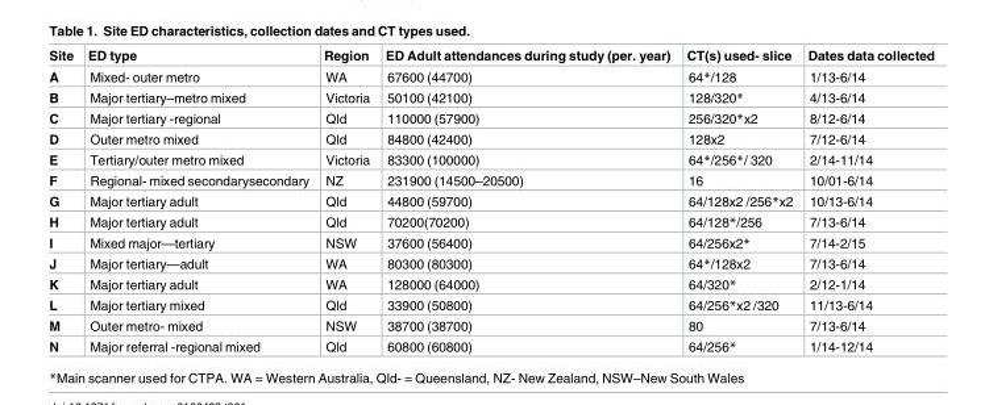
<table><thead><tr><td>Site</td><td>ED type</td><td>Region</td><td>ED Adult attendances during study (per. year)</td><td>CT(s) used- slice</td><td>Dates data collected</td></tr></thead><tbody><tr><td>A</td><td>Mixed- outer metro</td><td>WA</td><td>67600 (44700)</td><td>64*/128</td><td>1/13-6/14</td></tr><tr><td>B</td><td>Major tertiary–metro mixed</td><td>Victoria</td><td>50100 (42100)</td><td>128/320*</td><td>4/13-6/14</td></tr><tr><td>C</td><td>Major tertiary -regional</td><td>Qld</td><td>110000 (57900)</td><td>256/320*x2</td><td>8/12-6/14</td></tr><tr><td>D</td><td>Outer metro mixed</td><td>Qld</td><td>84800 (42400)</td><td>128x2</td><td>7/12-6/14</td></tr><tr><td>E</td><td>Tertiary/outer metro mixed</td><td>Victoria</td><td>83300 (100000)</td><td>64*/256*/ 320</td><td>2/14-11/14</td></tr><tr><td>F</td><td>Regional- mixed secondarysecondary</td><td>NZ</td><td>231900 (14500–20500)</td><td>16</td><td>10/01-6/14</td></tr><tr><td>G</td><td>Major tertiary adult</td><td>Qld</td><td>44800 (59700)</td><td>64/128x2 /256*x2</td><td>10/13-6/14</td></tr><tr><td>H</td><td>Major tertiary adult</td><td>Qld</td><td>70200(70200)</td><td>64/128*/256</td><td>7/13-6/14</td></tr><tr><td>I</td><td>Mixed major—tertiary</td><td>NSW</td><td>37600 (56400)</td><td>64/256x2*</td><td>7/14-2/15</td></tr><tr><td>J</td><td>Major tertiary—adult</td><td>WA</td><td>80300 (80300)</td><td>64*/128x2</td><td>7/13-6/14</td></tr><tr><td>K</td><td>Major tertiary adult</td><td>WA</td><td>128000 (64000)</td><td>64/320*</td><td>2/12-1/14</td></tr><tr><td>L</td><td>Major tertiary mixed</td><td>Qld</td><td>33900 (50800)</td><td>64/256*x2 /320</td><td>11/13-6/14</td></tr><tr><td>M</td><td>Outer metro- mixed</td><td>NSW</td><td>38700 (38700)</td><td>80</td><td>7/13-6/14</td></tr><tr><td>N</td><td>Major referral -regional mixed</td><td>Qld</td><td>60800 (60800)</td><td>64/256*</td><td>1/14-12/14</td></tr></tbody></table>